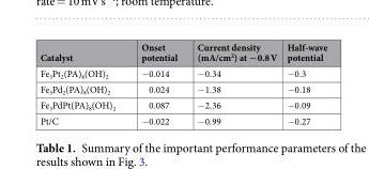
<table><thead><tr><td>Catalyst</td><td>Onset potential</td><td>Current density (mA/cm<sup>2</sup>) at −0.8 V</td><td>Half-wave potential</td></tr></thead><tbody><tr><td>Fe<sub>3</sub>Pt<sub>2</sub>(PA)<sub>8</sub>(OH)<sub>2</sub></td><td>−0.014</td><td>−0.34</td><td>−0.3</td></tr><tr><td>Fe<sub>3</sub>Pd<sub>2</sub>(PA)<sub>8</sub>(OH)<sub>2</sub></td><td>0.024</td><td>−1.38</td><td>−0.18</td></tr><tr><td>Fe<sub>3</sub>PdPt(PA)<sub>8</sub>(OH)<sub>2</sub></td><td>0.087</td><td>−2.36</td><td>−0.09</td></tr><tr><td>Pt/C</td><td>−0.022</td><td>−0.99</td><td>−0.27</td></tr></tbody></table>